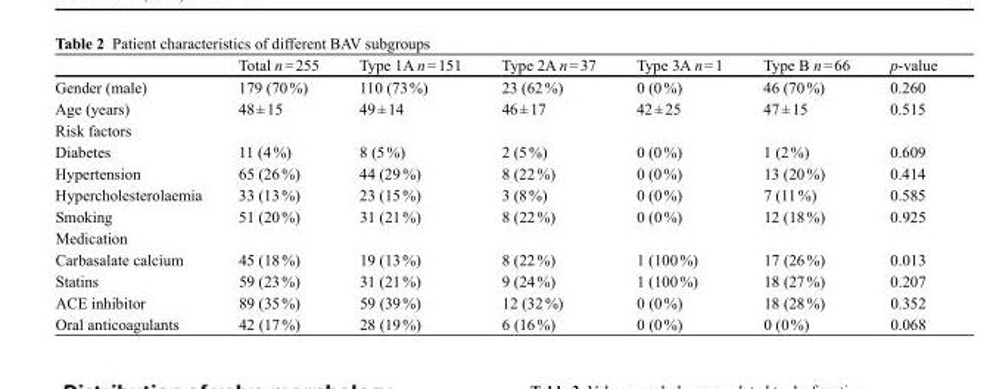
<table><thead><tr><td></td><td>Total n = 255</td><td>Type 1A n = 151</td><td>Type 2A n = 37</td><td>Type 3A n = 1</td><td>Type B n = 66</td><td>p-value</td></tr></thead><tbody><tr><td>Gender (male)</td><td>179 (70 %)</td><td>110 (73 %)</td><td>23 (62 %)</td><td>0 (0 %)</td><td>46 (70 %)</td><td>0.260</td></tr><tr><td>Age (years)</td><td>48 ± 15</td><td>49 ± 14</td><td>46 ± 17</td><td>42 ± 25</td><td>47 ± 15</td><td>0.515</td></tr><tr><td colspan="7">Risk factors</td></tr><tr><td>Diabetes</td><td>11 (4 %)</td><td>8 (5 %)</td><td>2 (5 %)</td><td>0 (0 %)</td><td>1 (2 %)</td><td>0.609</td></tr><tr><td>Hypertension</td><td>65 (26 %)</td><td>44 (29 %)</td><td>8 (22 %)</td><td>0 (0 %)</td><td>13 (20 %)</td><td>0.414</td></tr><tr><td>Hypercholesterolaemia</td><td>33 (13 %)</td><td>23 (15 %)</td><td>3 (8 %)</td><td>0 (0 %)</td><td>7 (11 %)</td><td>0.585</td></tr><tr><td>Smoking</td><td>51 (20 %)</td><td>31 (21 %)</td><td>8 (22 %)</td><td>0 (0 %)</td><td>12 (18 %)</td><td>0.925</td></tr><tr><td colspan="7">Medication</td></tr><tr><td>Carbasalate calcium</td><td>45 (18 %)</td><td>19 (13 %)</td><td>8 (22 %)</td><td>1 (100 %)</td><td>17 (26 %)</td><td>0.013</td></tr><tr><td>Statins</td><td>59 (23 %)</td><td>31 (21 %)</td><td>9 (24 %)</td><td>1 (100 %)</td><td>18 (27 %)</td><td>0.207</td></tr><tr><td>ACE inhibitor</td><td>89 (35 %)</td><td>59 (39 %)</td><td>12 (32 %)</td><td>0 (0 %)</td><td>18 (28 %)</td><td>0.352</td></tr><tr><td>Oral anticoagulants</td><td>42 (17 %)</td><td>28 (19 %)</td><td>6 (16 %)</td><td>0 (0 %)</td><td>0 (0 %)</td><td>0.068</td></tr></tbody></table>